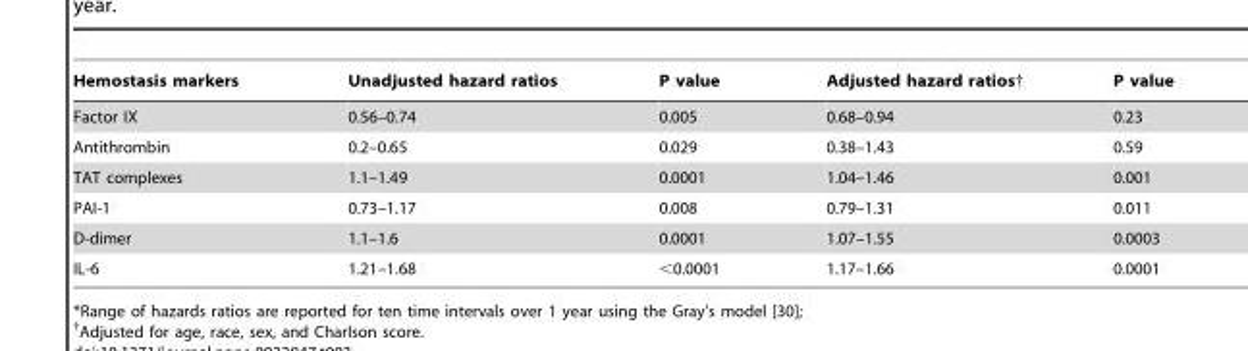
<table><thead><tr><td>Hemostasis markers</td><td>Unadjusted hazard ratios</td><td>P value</td><td>Adjusted hazard ratios†</td><td>P value</td></tr></thead><tbody><tr><td>Factor IX</td><td>0.56–0.74</td><td>0.005</td><td>0.68–0.94</td><td>0.23</td></tr><tr><td>Antithrombin</td><td>0.2–0.65</td><td>0.029</td><td>0.38–1.43</td><td>0.59</td></tr><tr><td>TAT complexes</td><td>1.1–1.49</td><td>0.0001</td><td>1.04–1.46</td><td>0.001</td></tr><tr><td>PAI-1</td><td>0.73–1.17</td><td>0.008</td><td>0.79–1.31</td><td>0.011</td></tr><tr><td>D-dimer</td><td>1.1–1.6</td><td>0.0001</td><td>1.07–1.55</td><td>0.0003</td></tr><tr><td>IL-6</td><td>1.21–1.68</td><td>&lt;0.0001</td><td>1.17–1.66</td><td>0.0001</td></tr></tbody></table>